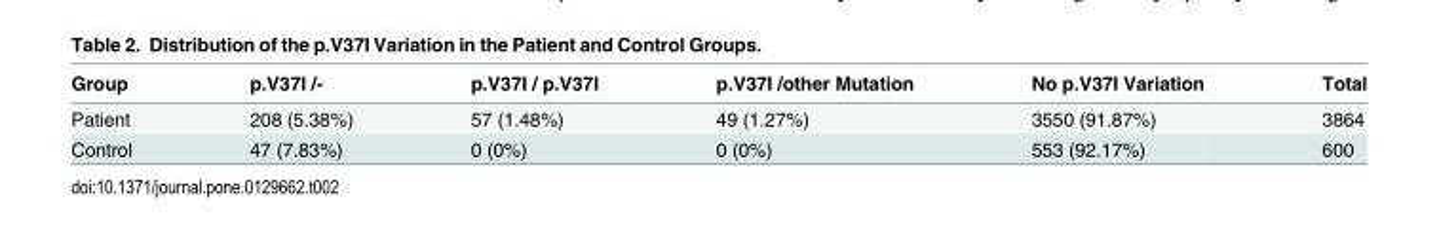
<table><thead><tr><td>Group</td><td>p.V37I /-</td><td>p.V37I / p.V37I</td><td>p.V37I /other Mutation</td><td>No p.V37I Variation</td><td>Total</td></tr></thead><tbody><tr><td>Patient</td><td>208 (5.38%)</td><td>57 (1.48%)</td><td>49 (1.27%)</td><td>3550 (91.87%)</td><td>3864</td></tr><tr><td>Control</td><td>47 (7.83%)</td><td>0 (0%)</td><td>0 (0%)</td><td>553 (92.17%)</td><td>600</td></tr></tbody></table>